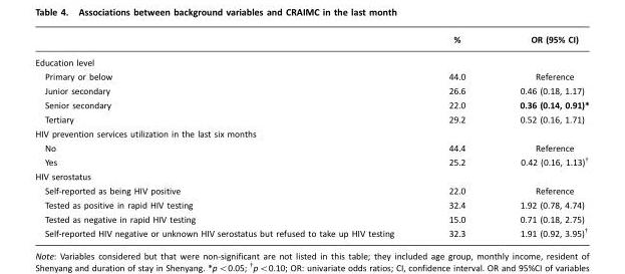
<table><thead><tr><td></td><td>%</td><td>OR (95% CI)</td></tr></thead><tbody><tr><td colspan="3">Education level</td></tr><tr><td>Primary or below</td><td>44.0</td><td>Reference</td></tr><tr><td>Junior secondary</td><td>26.6</td><td>0.46 (0.18, 1.17)</td></tr><tr><td>Senior secondary</td><td>22.0</td><td>0.36 (0.14, 0.91)*</td></tr><tr><td>Tertiary</td><td>29.2</td><td>0.52 (0.16, 1.71)</td></tr><tr><td colspan="3">HIV prevention services utilization in the last six months</td></tr><tr><td>No</td><td>44.4</td><td>Reference</td></tr><tr><td>Yes</td><td>25.2</td><td>0.42 (0.16, 1.13)†</td></tr><tr><td colspan="3">HIV serostatus</td></tr><tr><td>Self-reported as being HIV positive</td><td>22.0</td><td>Reference</td></tr><tr><td>Tested as positive in rapid HIV testing</td><td>32.4</td><td>1.92 (0.78, 4.74)</td></tr><tr><td>Tested as negative in rapid HIV testing</td><td>15.0</td><td>0.71 (0.18, 2.75)</td></tr><tr><td>Self-reported HIV negative or unknown HIV serostatus but refused to take up HIV testing</td><td>32.3</td><td>1.91 (0.92, 3.95)†</td></tr></tbody></table>